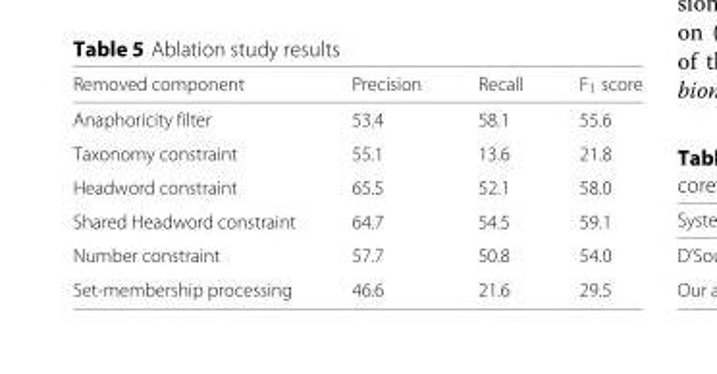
<table><thead><tr><td>Removed component</td><td>Precision</td><td>Recall</td><td>F<sub>1</sub> score</td></tr></thead><tbody><tr><td>Anaphoricity filter</td><td>53.4</td><td>58.1</td><td>55.6</td></tr><tr><td>Taxonomy constraint</td><td>55.1</td><td>13.6</td><td>21.8</td></tr><tr><td>Headword constraint</td><td>65.5</td><td>52.1</td><td>58.0</td></tr><tr><td>Shared Headword constraint</td><td>64.7</td><td>54.5</td><td>59.1</td></tr><tr><td>Number constraint</td><td>57.7</td><td>50.8</td><td>54.0</td></tr><tr><td>Set-membership processing</td><td>46.6</td><td>21.6</td><td>29.5</td></tr></tbody></table>